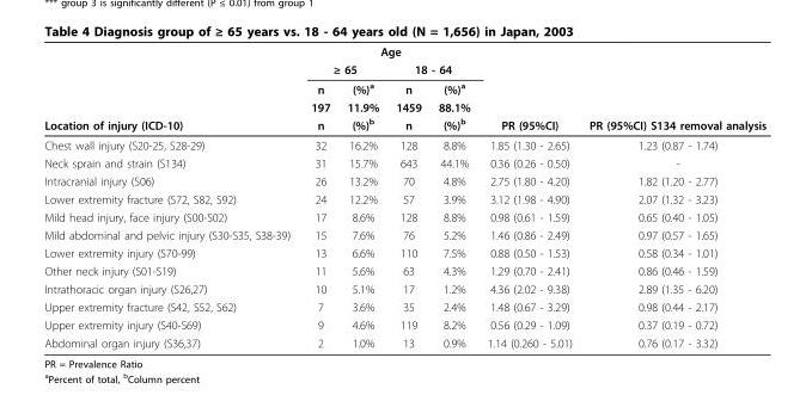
<table><thead><tr><td rowspan="5">Location of injury (ICD-10)</td><td colspan="4">Age</td><td rowspan="5">PR (95%CI)</td><td rowspan="5">PR (95%CI) S134 removal analysis</td></tr><tr><td colspan="2">≥ 65</td><td colspan="2">18 - 64</td></tr><tr><td rowspan="3">n 197 n</td><td rowspan="3">(%)<sup>a</sup> 11.9% (%)<sup>b</sup></td><td rowspan="3">n 1459 n</td><td rowspan="3">(%)<sup>a</sup> 88.1% (%)<sup>b</sup></td></tr><tr></tr><tr></tr></thead><tbody><tr><td>Chest wall injury (S20-25, S28-29)</td><td>32</td><td>16.2%</td><td>128</td><td>8.8%</td><td>1.85 (1.30 - 2.65)</td><td>1.23 (0.87 - 1.74)</td></tr><tr><td>Neck sprain and strain (S134)</td><td>31</td><td>15.7%</td><td>643</td><td>44.1%</td><td>0.36 (0.26 - 0.50)</td><td>-</td></tr><tr><td>Intracranial injury (S06)</td><td>26</td><td>13.2%</td><td>70</td><td>4.8%</td><td>2.75 (1.80 - 4.20)</td><td>1.82 (1.20 - 2.77)</td></tr><tr><td>Lower extremity fracture (S72, S82, S92)</td><td>24</td><td>12.2%</td><td>57</td><td>3.9%</td><td>3.12 (1.98 - 4.90)</td><td>2.07 (1.32 - 3.23)</td></tr><tr><td>Mild head injury, face injury (S00-S02)</td><td>17</td><td>8.6%</td><td>128</td><td>8.8%</td><td>0.98 (0.61 - 1.59)</td><td>0.65 (0.40 - 1.05)</td></tr><tr><td>Mild abdominal and pelvic injury (S30-S35, S38-39)</td><td>15</td><td>7.6%</td><td>76</td><td>5.2%</td><td>1.46 (0.86 - 2.49)</td><td>0.97 (0.57 - 1.65)</td></tr><tr><td>Lower extremity injury (S70-99)</td><td>13</td><td>6.6%</td><td>110</td><td>7.5%</td><td>0.88 (0.50 - 1.53)</td><td>0.58 (0.34 - 1.01)</td></tr><tr><td>Other neck injury (S01-S19)</td><td>11</td><td>5.6%</td><td>63</td><td>4.3%</td><td>1.29 (0.70 - 2.41)</td><td>0.86 (0.46 - 1.59)</td></tr><tr><td>Intrathoracic organ injury (S26,27)</td><td>10</td><td>5.1%</td><td>17</td><td>1.2%</td><td>4.36 (2.02 - 9.38)</td><td>2.89 (1.35 - 6.20)</td></tr><tr><td>Upper extremity fracture (S42, S52, S62)</td><td>7</td><td>3.6%</td><td>35</td><td>2.4%</td><td>1.48 (0.67 - 3.29)</td><td>0.98 (0.44 - 2.17)</td></tr><tr><td>Upper extremity injury (S40-S69)</td><td>9</td><td>4.6%</td><td>119</td><td>8.2%</td><td>0.56 (0.29 - 1.09)</td><td>0.37 (0.19 - 0.72)</td></tr><tr><td>Abdominal organ injury (S36,37)</td><td>2</td><td>1.0%</td><td>13</td><td>0.9%</td><td>1.14 (0.260 - 5.01)</td><td>0.76 (0.17 - 3.32)</td></tr></tbody></table>